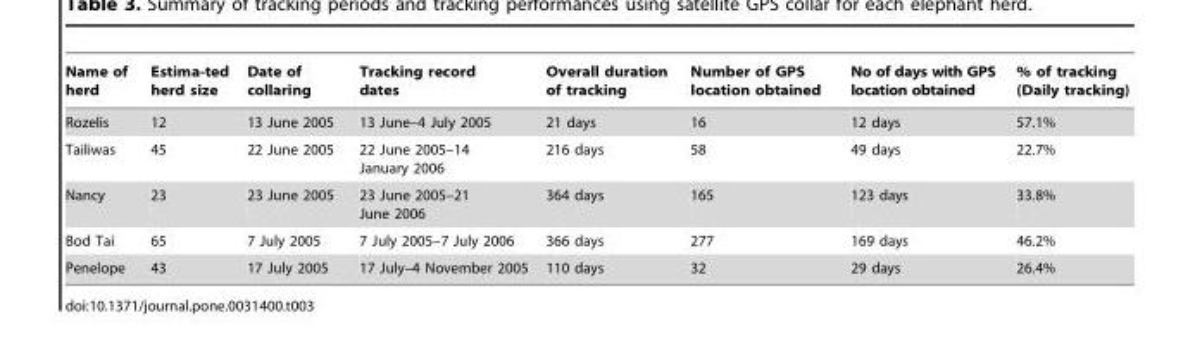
<table><thead><tr><td>Name of herd</td><td>Estima-ted herd size</td><td>Date of collaring</td><td>Tracking record dates</td><td>Overall duration of tracking</td><td>Number of GPS location obtained</td><td>No of days with GPS location obtained</td><td>% of tracking (Daily tracking)</td></tr></thead><tbody><tr><td>Rozelis</td><td>12</td><td>13 June 2005</td><td>13 June–4 July 2005</td><td>21 days</td><td>16</td><td>12 days</td><td>57.1%</td></tr><tr><td>Tailiwas</td><td>45</td><td>22 June 2005</td><td>22 June 2005–14 January 2006</td><td>216 days</td><td>58</td><td>49 days</td><td>22.7%</td></tr><tr><td>Nancy</td><td>23</td><td>23 June 2005</td><td>23 June 2005–21 June 2006</td><td>364 days</td><td>165</td><td>123 days</td><td>33.8%</td></tr><tr><td>Bod Tai</td><td>65</td><td>7 July 2005</td><td>7 July 2005–7 July 2006</td><td>366 days</td><td>277</td><td>169 days</td><td>46.2%</td></tr><tr><td>Penelope</td><td>43</td><td>17 July 2005</td><td>17 July–4 November 2005</td><td>110 days</td><td>32</td><td>29 days</td><td>26.4%</td></tr></tbody></table>